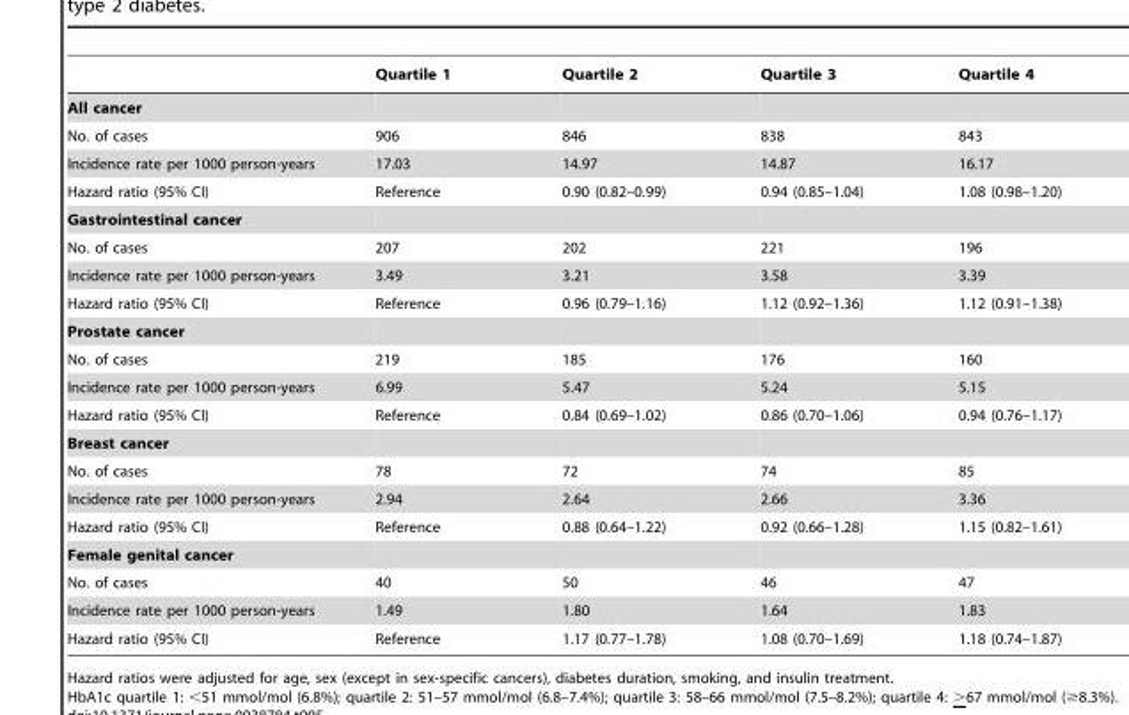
<table><thead><tr><td></td><td>Quartile 1</td><td>Quartile 2</td><td>Quartile 3</td><td>Quartile 4</td></tr></thead><tbody><tr><td colspan="5">All cancer</td></tr><tr><td>No. of cases</td><td>906</td><td>846</td><td>838</td><td>843</td></tr><tr><td>Incidence rate per 1000 person-years</td><td>17.03</td><td>14.97</td><td>14.87</td><td>16.17</td></tr><tr><td>Hazard ratio (95% CI)</td><td>Reference</td><td>0.90 (0.82–0.99)</td><td>0.94 (0.85–1.04)</td><td>1.08 (0.98–1.20)</td></tr><tr><td colspan="5">Gastrointestinal cancer</td></tr><tr><td>No. of cases</td><td>207</td><td>202</td><td>221</td><td>196</td></tr><tr><td>Incidence rate per 1000 person-years</td><td>3.49</td><td>3.21</td><td>3.58</td><td>3.39</td></tr><tr><td>Hazard ratio (95% CI)</td><td>Reference</td><td>0.96 (0.79–1.16)</td><td>1.12 (0.92–1.36)</td><td>1.12 (0.91–1.38)</td></tr><tr><td colspan="5">Prostate cancer</td></tr><tr><td>No. of cases</td><td>219</td><td>185</td><td>176</td><td>160</td></tr><tr><td>Incidence rate per 1000 person-years</td><td>6.99</td><td>5.47</td><td>5.24</td><td>5.15</td></tr><tr><td>Hazard ratio (95% CI)</td><td>Reference</td><td>0.84 (0.69–1.02)</td><td>0.86 (0.70–1.06)</td><td>0.94 (0.76–1.17)</td></tr><tr><td colspan="5">Breast cancer</td></tr><tr><td>No. of cases</td><td>78</td><td>72</td><td>74</td><td>85</td></tr><tr><td>Incidence rate per 1000 person-years</td><td>2.94</td><td>2.64</td><td>2.66</td><td>3.36</td></tr><tr><td>Hazard ratio (95% CI)</td><td>Reference</td><td>0.88 (0.64–1.22)</td><td>0.92 (0.66–1.28)</td><td>1.15 (0.82–1.61)</td></tr><tr><td colspan="5">Female genital cancer</td></tr><tr><td>No. of cases</td><td>40</td><td>50</td><td>46</td><td>47</td></tr><tr><td>Incidence rate per 1000 person-years</td><td>1.49</td><td>1.80</td><td>1.64</td><td>1.83</td></tr><tr><td>Hazard ratio (95% CI)</td><td>Reference</td><td>1.17 (0.77–1.78)</td><td>1.08 (0.70–1.69)</td><td>1.18 (0.74–1.87)</td></tr></tbody></table>